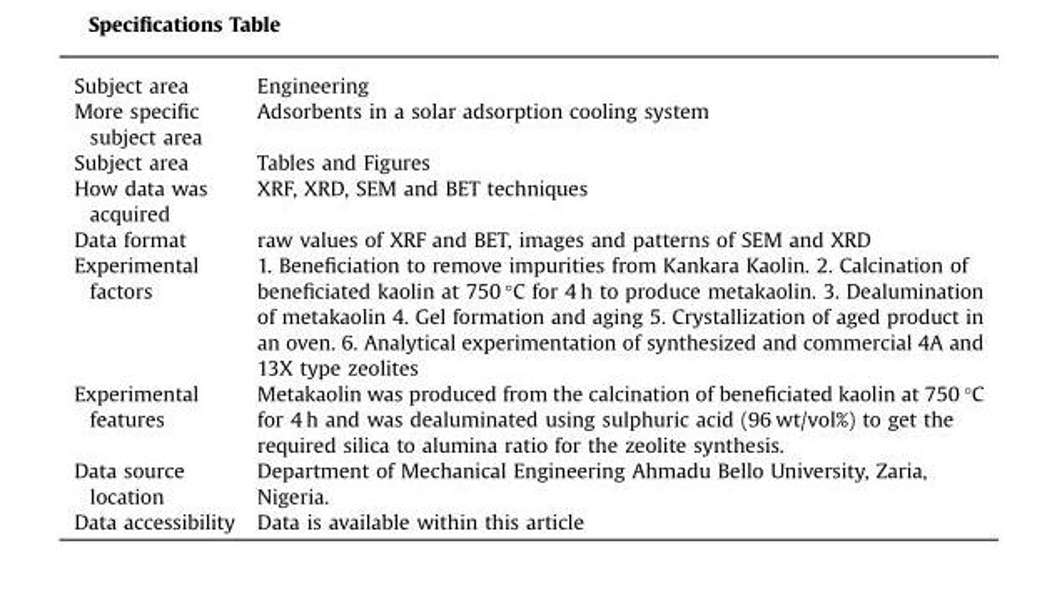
<table><thead><tr><td>Subject area</td><td>Engineering</td></tr></thead><tbody><tr><td>More specific subject area</td><td>Adsorbents in a solar adsorption cooling system</td></tr><tr><td>Subject area</td><td>Tables and Figures</td></tr><tr><td>How data was acquired</td><td>XRF, XRD, SEM and BET techniques</td></tr><tr><td>Data format</td><td>raw values of XRF and BET, images and patterns of SEM and XRD</td></tr><tr><td>Experimental factors</td><td>1. Beneficiation to remove impurities from Kankara Kaolin. 2. Calcination of beneficiated kaolin at 750 °C for 4 h to produce metakaolin. 3. Dealumination of metakaolin 4. Gel formation and aging 5. Crystallization of aged product in an oven. 6. Analytical experimentation of synthesized and commercial 4A and 13X type zeolites</td></tr><tr><td>Experimental features</td><td>Metakaolin was produced from the calcination of beneficiated kaolin at 750 °C for 4 h and was dealuminated using sulphuric acid (96 wt/vol%) to get the required silica to alumina ratio for the zeolite synthesis.</td></tr><tr><td>Data source location</td><td>Department of Mechanical Engineering Ahmadu Bello University, Zaria, Nigeria.</td></tr><tr><td>Data accessibility</td><td>Data is available within this article</td></tr></tbody></table>